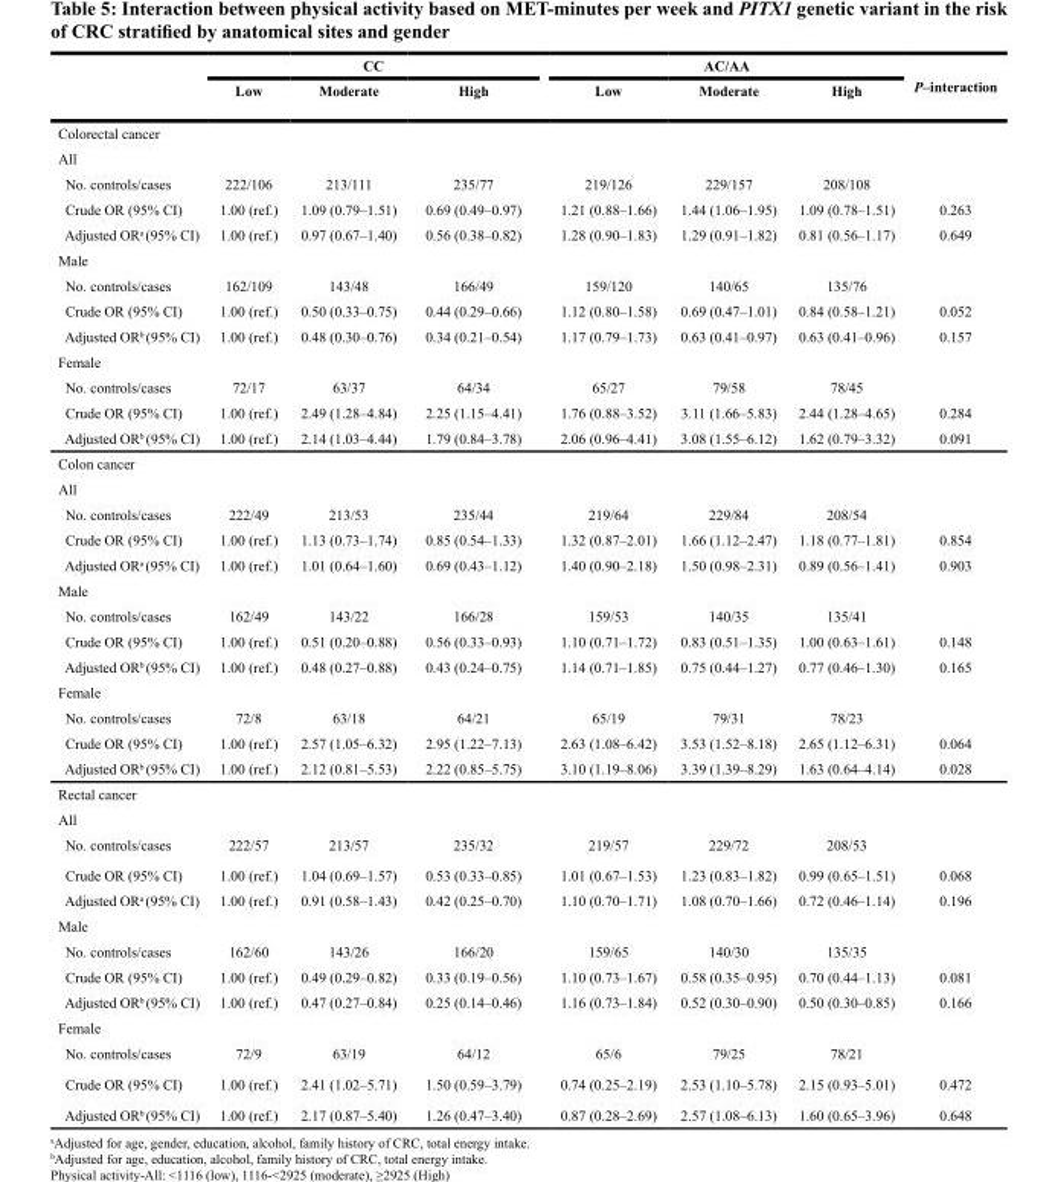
<table><thead><tr><td rowspan="2"></td><td colspan="3">CC</td><td colspan="3">AC/AA</td><td rowspan="2">P–interaction</td></tr><tr><td>Low</td><td>Moderate</td><td>High</td><td>Low</td><td>Moderate</td><td>High</td></tr></thead><tbody><tr><td colspan="8">Colorectal cancer</td></tr><tr><td colspan="8">All</td></tr><tr><td>No. controls/cases</td><td>222/106</td><td>213/111</td><td>235/77</td><td>219/126</td><td>229/157</td><td>208/108</td><td></td></tr><tr><td>Crude OR (95% CI)</td><td>1.00 (ref.)</td><td>1.09 (0.79–1.51)</td><td>0.69 (0.49–0.97)</td><td>1.21 (0.88–1.66)</td><td>1.44 (1.06–1.95)</td><td>1.09 (0.78–1.51)</td><td>0.263</td></tr><tr><td>Adjusted OR<sup>a</sup> (95% CI)</td><td>1.00 (ref.)</td><td>0.97 (0.67–1.40)</td><td>0.56 (0.38–0.82)</td><td>1.28 (0.90–1.83)</td><td>1.29 (0.91–1.82)</td><td>0.81 (0.56–1.17)</td><td>0.649</td></tr><tr><td colspan="8">Male</td></tr><tr><td>No. controls/cases</td><td>162/109</td><td>143/48</td><td>166/49</td><td>159/120</td><td>140/65</td><td>135/76</td><td></td></tr><tr><td>Crude OR (95% CI)</td><td>1.00 (ref.)</td><td>0.50 (0.33–0.75)</td><td>0.44 (0.29–0.66)</td><td>1.12 (0.80–1.58)</td><td>0.69 (0.47–1.01)</td><td>0.84 (0.58–1.21)</td><td>0.052</td></tr><tr><td>Adjusted OR<sup>b</sup> (95% CI)</td><td>1.00 (ref.)</td><td>0.48 (0.30–0.76)</td><td>0.34 (0.21–0.54)</td><td>1.17 (0.79–1.73)</td><td>0.63 (0.41–0.97)</td><td>0.63 (0.41–0.96)</td><td>0.157</td></tr><tr><td colspan="8">Female</td></tr><tr><td>No. controls/cases</td><td>72/17</td><td>63/37</td><td>64/34</td><td>65/27</td><td>79/58</td><td>78/45</td><td></td></tr><tr><td>Crude OR (95% CI)</td><td>1.00 (ref.)</td><td>2.49 (1.28–4.84)</td><td>2.25 (1.15–4.41)</td><td>1.76 (0.88–3.52)</td><td>3.11 (1.66–5.83)</td><td>2.44 (1.28–4.65)</td><td>0.284</td></tr><tr><td>Adjusted OR<sup>b</sup> (95% CI)</td><td>1.00 (ref.)</td><td>2.14 (1.03–4.44)</td><td>1.79 (0.84–3.78)</td><td>2.06 (0.96–4.41)</td><td>3.08 (1.55–6.12)</td><td>1.62 (0.79–3.32)</td><td>0.091</td></tr><tr><td colspan="8">Colon cancer</td></tr><tr><td colspan="8">All</td></tr><tr><td>No. controls/cases</td><td>222/49</td><td>213/53</td><td>235/44</td><td>219/64</td><td>229/84</td><td>208/54</td><td></td></tr><tr><td>Crude OR (95% CI)</td><td>1.00 (ref.)</td><td>1.13 (0.73–1.74)</td><td>0.85 (0.54–1.33)</td><td>1.32 (0.87–2.01)</td><td>1.66 (1.12–2.47)</td><td>1.18 (0.77–1.81)</td><td>0.854</td></tr><tr><td>Adjusted OR<sup>a</sup> (95% CI)</td><td>1.00 (ref.)</td><td>1.01 (0.64–1.60)</td><td>0.69 (0.43–1.12)</td><td>1.40 (0.90–2.18)</td><td>1.50 (0.98–2.31)</td><td>0.89 (0.56–1.41)</td><td>0.903</td></tr><tr><td colspan="8">Male</td></tr><tr><td>No. controls/cases</td><td>162/49</td><td>143/22</td><td>166/28</td><td>159/53</td><td>140/35</td><td>135/41</td><td></td></tr><tr><td>Crude OR (95% CI)</td><td>1.00 (ref.)</td><td>0.51 (0.20–0.88)</td><td>0.56 (0.33–0.93)</td><td>1.10 (0.71–1.72)</td><td>0.83 (0.51–1.35)</td><td>1.00 (0.63–1.61)</td><td>0.148</td></tr><tr><td>Adjusted OR<sup>b</sup> (95% CI)</td><td>1.00 (ref.)</td><td>0.48 (0.27–0.88)</td><td>0.43 (0.24–0.75)</td><td>1.14 (0.71–1.85)</td><td>0.75 (0.44–1.27)</td><td>0.77 (0.46–1.30)</td><td>0.165</td></tr><tr><td colspan="8">Female</td></tr><tr><td>No. controls/cases</td><td>72/8</td><td>63/18</td><td>64/21</td><td>65/19</td><td>79/31</td><td>78/23</td><td></td></tr><tr><td>Crude OR (95% CI)</td><td>1.00 (ref.)</td><td>2.57 (1.05–6.32)</td><td>2.95 (1.22–7.13)</td><td>2.63 (1.08–6.42)</td><td>3.53 (1.52–8.18)</td><td>2.65 (1.12–6.31)</td><td>0.064</td></tr><tr><td>Adjusted OR<sup>b</sup> (95% CI)</td><td>1.00 (ref.)</td><td>2.12 (0.81–5.53)</td><td>2.22 (0.85–5.75)</td><td>3.10 (1.19–8.06)</td><td>3.39 (1.39–8.29)</td><td>1.63 (0.64–4.14)</td><td>0.028</td></tr><tr><td colspan="8">Rectal cancer</td></tr><tr><td colspan="8">All</td></tr><tr><td>No. controls/cases</td><td>222/57</td><td>213/57</td><td>235/32</td><td>219/57</td><td>229/72</td><td>208/53</td><td></td></tr><tr><td>Crude OR (95% CI)</td><td>1.00 (ref.)</td><td>1.04 (0.69–1.57)</td><td>0.53 (0.33–0.85)</td><td>1.01 (0.67–1.53)</td><td>1.23 (0.83–1.82)</td><td>0.99 (0.65–1.51)</td><td>0.068</td></tr><tr><td>Adjusted OR<sup>a</sup> (95% CI)</td><td>1.00 (ref.)</td><td>0.91 (0.58–1.43)</td><td>0.42 (0.25–0.70)</td><td>1.10 (0.70–1.71)</td><td>1.08 (0.70–1.66)</td><td>0.72 (0.46–1.14)</td><td>0.196</td></tr><tr><td colspan="8">Male</td></tr><tr><td>No. controls/cases</td><td>162/60</td><td>143/26</td><td>166/20</td><td>159/65</td><td>140/30</td><td>135/35</td><td></td></tr><tr><td>Crude OR (95% CI)</td><td>1.00 (ref.)</td><td>0.49 (0.29–0.82)</td><td>0.33 (0.19–0.56)</td><td>1.10 (0.73–1.67)</td><td>0.58 (0.35–0.95)</td><td>0.70 (0.44–1.13)</td><td>0.081</td></tr><tr><td>Adjusted OR<sup>b</sup> (95% CI)</td><td>1.00 (ref.)</td><td>0.47 (0.27–0.84)</td><td>0.25 (0.14–0.46)</td><td>1.16 (0.73–1.84)</td><td>0.52 (0.30–0.90)</td><td>0.50 (0.30–0.85)</td><td>0.166</td></tr><tr><td colspan="8">Female</td></tr><tr><td>No. controls/cases</td><td>72/9</td><td>63/19</td><td>64/12</td><td>65/6</td><td>79/25</td><td>78/21</td><td></td></tr><tr><td>Crude OR (95% CI)</td><td>1.00 (ref.)</td><td>2.41 (1.02–5.71)</td><td>1.50 (0.59–3.79)</td><td>0.74 (0.25–2.19)</td><td>2.53 (1.10–5.78)</td><td>2.15 (0.93–5.01)</td><td>0.472</td></tr><tr><td>Adjusted OR<sup>b</sup> (95% CI)</td><td>1.00 (ref.)</td><td>2.17 (0.87–5.40)</td><td>1.26 (0.47–3.40)</td><td>0.87 (0.28–2.69)</td><td>2.57 (1.08–6.13)</td><td>1.60 (0.65–3.96)</td><td>0.648</td></tr></tbody></table>